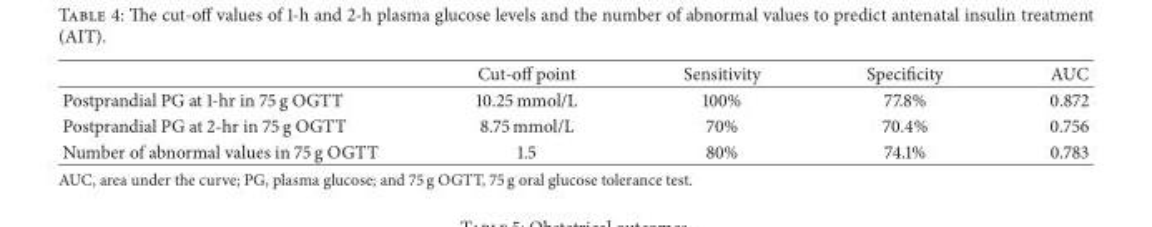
<table><thead><tr><td></td><td>Cut-off point</td><td>Sensitivity</td><td>Specificity</td><td>AUC</td></tr></thead><tbody><tr><td>Postprandial PG at 1-hr in 75 g OGTT</td><td>10.25 mmol/L</td><td>100%</td><td>77.8%</td><td>0.872</td></tr><tr><td>Postprandial PG at 2-hr in 75 g OGTT</td><td>8.75 mmol/L</td><td>70%</td><td>70.4%</td><td>0.756</td></tr><tr><td>Number of abnormal values in 75 g OGTT</td><td>1.5</td><td>80%</td><td>74.1%</td><td>0.783</td></tr></tbody></table>